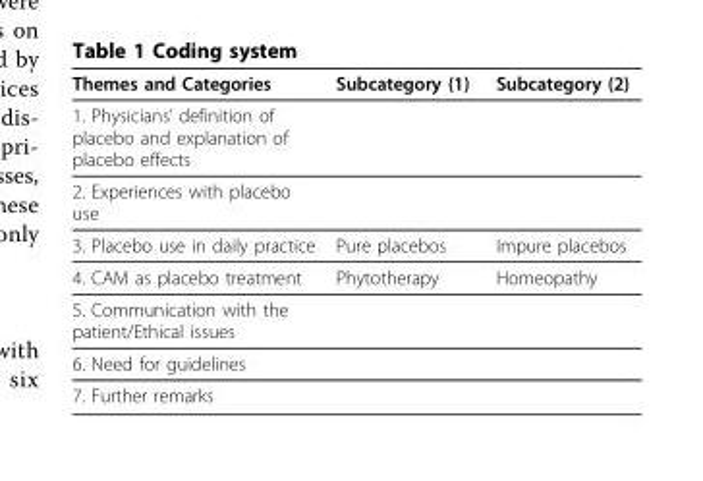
<table><thead><tr><td>Themes and Categories</td><td>Subcategory (1)</td><td>Subcategory (2)</td></tr></thead><tbody><tr><td colspan="3">1. Physicians’ definition of placebo and explanation of placebo effects</td></tr><tr><td colspan="3">2. Experiences with placebo use</td></tr><tr><td>3. Placebo use in daily practice</td><td>Pure placebos</td><td>Impure placebos</td></tr><tr><td>4. CAM as placebo treatment</td><td>Phytotherapy</td><td>Homeopathy</td></tr><tr><td colspan="3">5. Communication with the patient/Ethical issues</td></tr><tr><td colspan="3">6. Need for guidelines</td></tr><tr><td>7. Further remarks</td><td></td><td></td></tr></tbody></table>